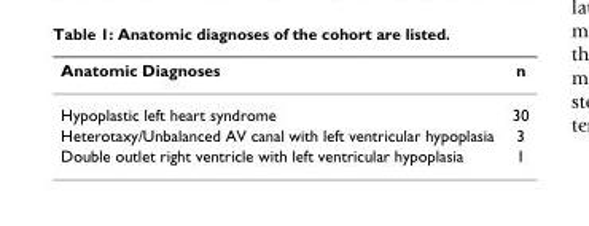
<table><thead><tr><td>Anatomic Diagnoses</td><td>n</td></tr></thead><tbody><tr><td>Hypoplastic left heart syndrome</td><td>30</td></tr><tr><td>Heterotaxy/Unbalanced AV canal with left ventricular hypoplasia</td><td>3</td></tr><tr><td>Double outlet right ventricle with left ventricular hypoplasia</td><td>1</td></tr></tbody></table>